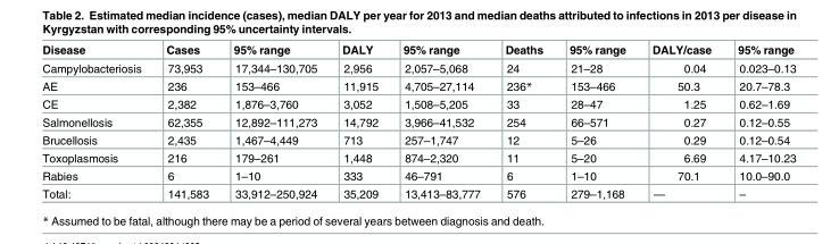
<table><thead><tr><td>Disease</td><td>Cases</td><td>95% range</td><td>DALY</td><td>95% range</td><td>Deaths</td><td>95% range</td><td>DALY/case</td><td>95% range</td></tr></thead><tbody><tr><td>Campylobacteriosis</td><td>73,953</td><td>17,344–130,705</td><td>2,956</td><td>2,057–5,068</td><td>24</td><td>21–28</td><td>0.04</td><td>0.023–0.13</td></tr><tr><td>AE</td><td>236</td><td>153–466</td><td>11,915</td><td>4,705–27,114</td><td>236*</td><td>153–466</td><td>50.3</td><td>20.7–78.3</td></tr><tr><td>CE</td><td>2,382</td><td>1,876–3,760</td><td>3,052</td><td>1,508–5,205</td><td>33</td><td>28–47</td><td>1.25</td><td>0.62–1.69</td></tr><tr><td>Salmonellosis</td><td>62,355</td><td>12,892–111,273</td><td>14,792</td><td>3,966–41,532</td><td>254</td><td>66–571</td><td>0.27</td><td>0.12–0.55</td></tr><tr><td>Brucellosis</td><td>2,435</td><td>1,467–4,449</td><td>713</td><td>257–1,747</td><td>12</td><td>5–26</td><td>0.29</td><td>0.12–0.54</td></tr><tr><td>Toxoplasmosis</td><td>216</td><td>179–261</td><td>1,448</td><td>874–2,320</td><td>11</td><td>5–20</td><td>6.69</td><td>4.17–10.23</td></tr><tr><td>Rabies</td><td>6</td><td>1–10</td><td>333</td><td>46–791</td><td>6</td><td>1–10</td><td>70.1</td><td>10.0–90.0</td></tr><tr><td>Total:</td><td>141,583</td><td>33,912–250,924</td><td>35,209</td><td>13,413–83,777</td><td>576</td><td>279–1,168</td><td>—</td><td>–</td></tr></tbody></table>